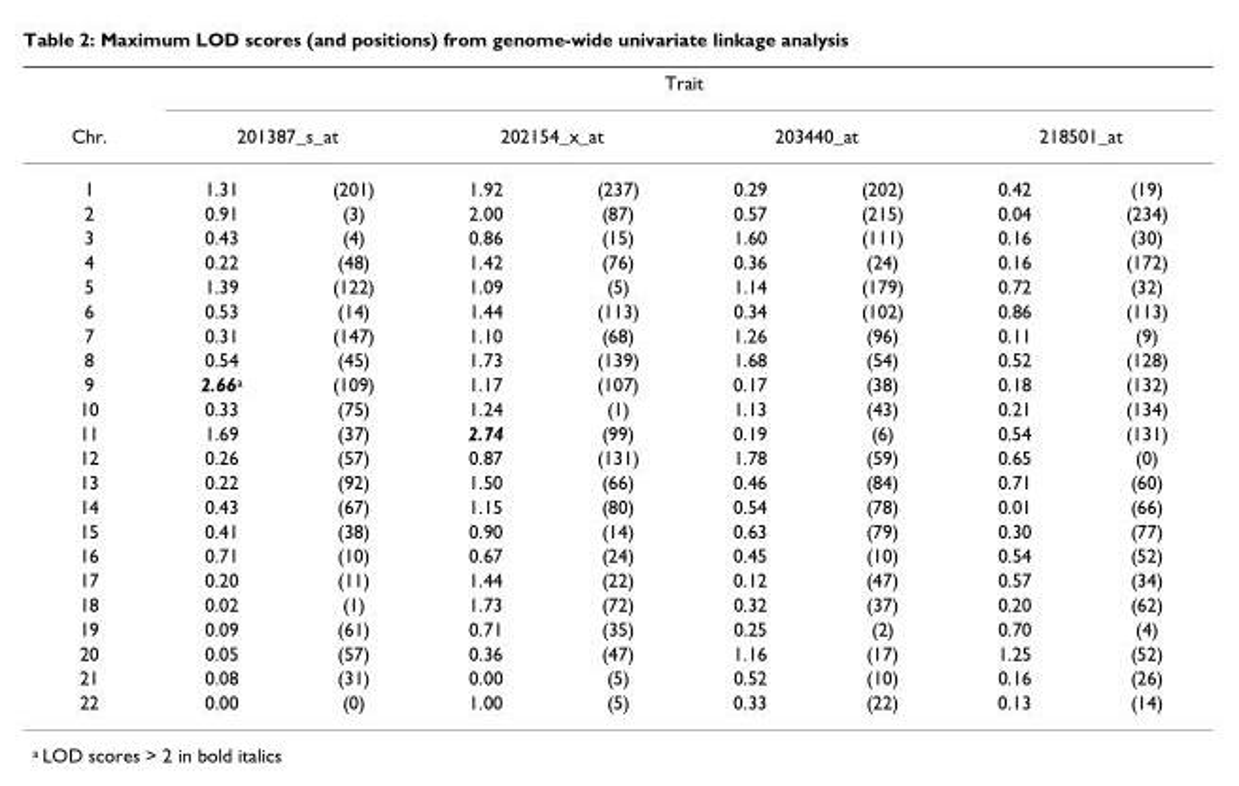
<table><thead><tr><td rowspan="3">Chr. 1</td><td colspan="8">Trait</td></tr><tr><td colspan="2">201387_s_at</td><td colspan="2">202154_x_at</td><td colspan="2">203440_at</td><td colspan="2">218501_at</td></tr><tr><td>1.31</td><td>(201)</td><td>1.92</td><td>(237)</td><td>0.29</td><td>(202)</td><td>0.42</td><td>(19)</td></tr></thead><tbody><tr><td>2</td><td>0.91</td><td>(3)</td><td>2.00</td><td>(87)</td><td>0.57</td><td>(215)</td><td>0.04</td><td>(234)</td></tr><tr><td>3</td><td>0.43</td><td>(4)</td><td>0.86</td><td>(15)</td><td>1.60</td><td>(111)</td><td>0.16</td><td>(30)</td></tr><tr><td>4</td><td>0.22</td><td>(48)</td><td>1.42</td><td>(76)</td><td>0.36</td><td>(24)</td><td>0.16</td><td>(172)</td></tr><tr><td>5</td><td>1.39</td><td>(122)</td><td>1.09</td><td>(5)</td><td>1.14</td><td>(179)</td><td>0.72</td><td>(32)</td></tr><tr><td>6</td><td>0.53</td><td>(14)</td><td>1.44</td><td>(113)</td><td>0.34</td><td>(102)</td><td>0.86</td><td>(113)</td></tr><tr><td>7</td><td>0.31</td><td>(147)</td><td>1.10</td><td>(68)</td><td>1.26</td><td>(96)</td><td>0.11</td><td>(9)</td></tr><tr><td>8</td><td>0.54</td><td>(45)</td><td>1.73</td><td>(139)</td><td>1.68</td><td>(54)</td><td>0.52</td><td>(128)</td></tr><tr><td>9</td><td>2.66<sup>a</sup></td><td>(109)</td><td>1.17</td><td>(107)</td><td>0.17</td><td>(38)</td><td>0.18</td><td>(132)</td></tr><tr><td>10</td><td>0.33</td><td>(75)</td><td>1.24</td><td>(1)</td><td>1.13</td><td>(43)</td><td>0.21</td><td>(134)</td></tr><tr><td>11</td><td>1.69</td><td>(37)</td><td>2.74</td><td>(99)</td><td>0.19</td><td>(6)</td><td>0.54</td><td>(131)</td></tr><tr><td>12</td><td>0.26</td><td>(57)</td><td>0.87</td><td>(131)</td><td>1.78</td><td>(59)</td><td>0.65</td><td>(0)</td></tr><tr><td>13</td><td>0.22</td><td>(92)</td><td>1.50</td><td>(66)</td><td>0.46</td><td>(84)</td><td>0.71</td><td>(60)</td></tr><tr><td>14</td><td>0.43</td><td>(67)</td><td>1.15</td><td>(80)</td><td>0.54</td><td>(78)</td><td>0.01</td><td>(66)</td></tr><tr><td>15</td><td>0.41</td><td>(38)</td><td>0.90</td><td>(14)</td><td>0.63</td><td>(79)</td><td>0.30</td><td>(77)</td></tr><tr><td>16</td><td>0.71</td><td>(10)</td><td>0.67</td><td>(24)</td><td>0.45</td><td>(10)</td><td>0.54</td><td>(52)</td></tr><tr><td>17</td><td>0.20</td><td>(11)</td><td>1.44</td><td>(22)</td><td>0.12</td><td>(47)</td><td>0.57</td><td>(34)</td></tr><tr><td>18</td><td>0.02</td><td>(1)</td><td>1.73</td><td>(72)</td><td>0.32</td><td>(37)</td><td>0.20</td><td>(62)</td></tr><tr><td>19</td><td>0.09</td><td>(61)</td><td>0.71</td><td>(35)</td><td>0.25</td><td>(2)</td><td>0.70</td><td>(4)</td></tr><tr><td>20</td><td>0.05</td><td>(57)</td><td>0.36</td><td>(47)</td><td>1.16</td><td>(17)</td><td>1.25</td><td>(52)</td></tr><tr><td>21</td><td>0.08</td><td>(31)</td><td>0.00</td><td>(5)</td><td>0.52</td><td>(10)</td><td>0.16</td><td>(26)</td></tr><tr><td>22</td><td>0.00</td><td>(0)</td><td>1.00</td><td>(5)</td><td>0.33</td><td>(22)</td><td>0.13</td><td>(14)</td></tr></tbody></table>